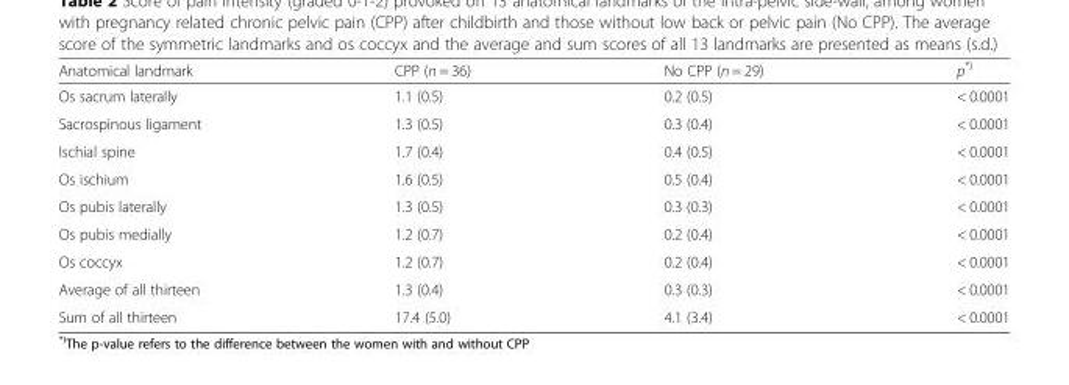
<table><thead><tr><td>Anatomical landmark</td><td>CPP (n = 36)</td><td>No CPP (n = 29)</td><td>p<sup>*)</sup></td></tr></thead><tbody><tr><td>Os sacrum laterally</td><td>1.1 (0.5)</td><td>0.2 (0.5)</td><td>&lt; 0.0001</td></tr><tr><td>Sacrospinous ligament</td><td>1.3 (0.5)</td><td>0.3 (0.4)</td><td>&lt; 0.0001</td></tr><tr><td>Ischial spine</td><td>1.7 (0.4)</td><td>0.4 (0.5)</td><td>&lt; 0.0001</td></tr><tr><td>Os ischium</td><td>1.6 (0.5)</td><td>0.5 (0.4)</td><td>&lt; 0.0001</td></tr><tr><td>Os pubis laterally</td><td>1.3 (0.5)</td><td>0.3 (0.3)</td><td>&lt; 0.0001</td></tr><tr><td>Os pubis medially</td><td>1.2 (0.7)</td><td>0.2 (0.4)</td><td>&lt; 0.0001</td></tr><tr><td>Os coccyx</td><td>1.2 (0.7)</td><td>0.2 (0.4)</td><td>&lt; 0.0001</td></tr><tr><td>Average of all thirteen</td><td>1.3 (0.4)</td><td>0.3 (0.3)</td><td>&lt; 0.0001</td></tr><tr><td>Sum of all thirteen</td><td>17.4 (5.0)</td><td>4.1 (3.4)</td><td>&lt; 0.0001</td></tr></tbody></table>